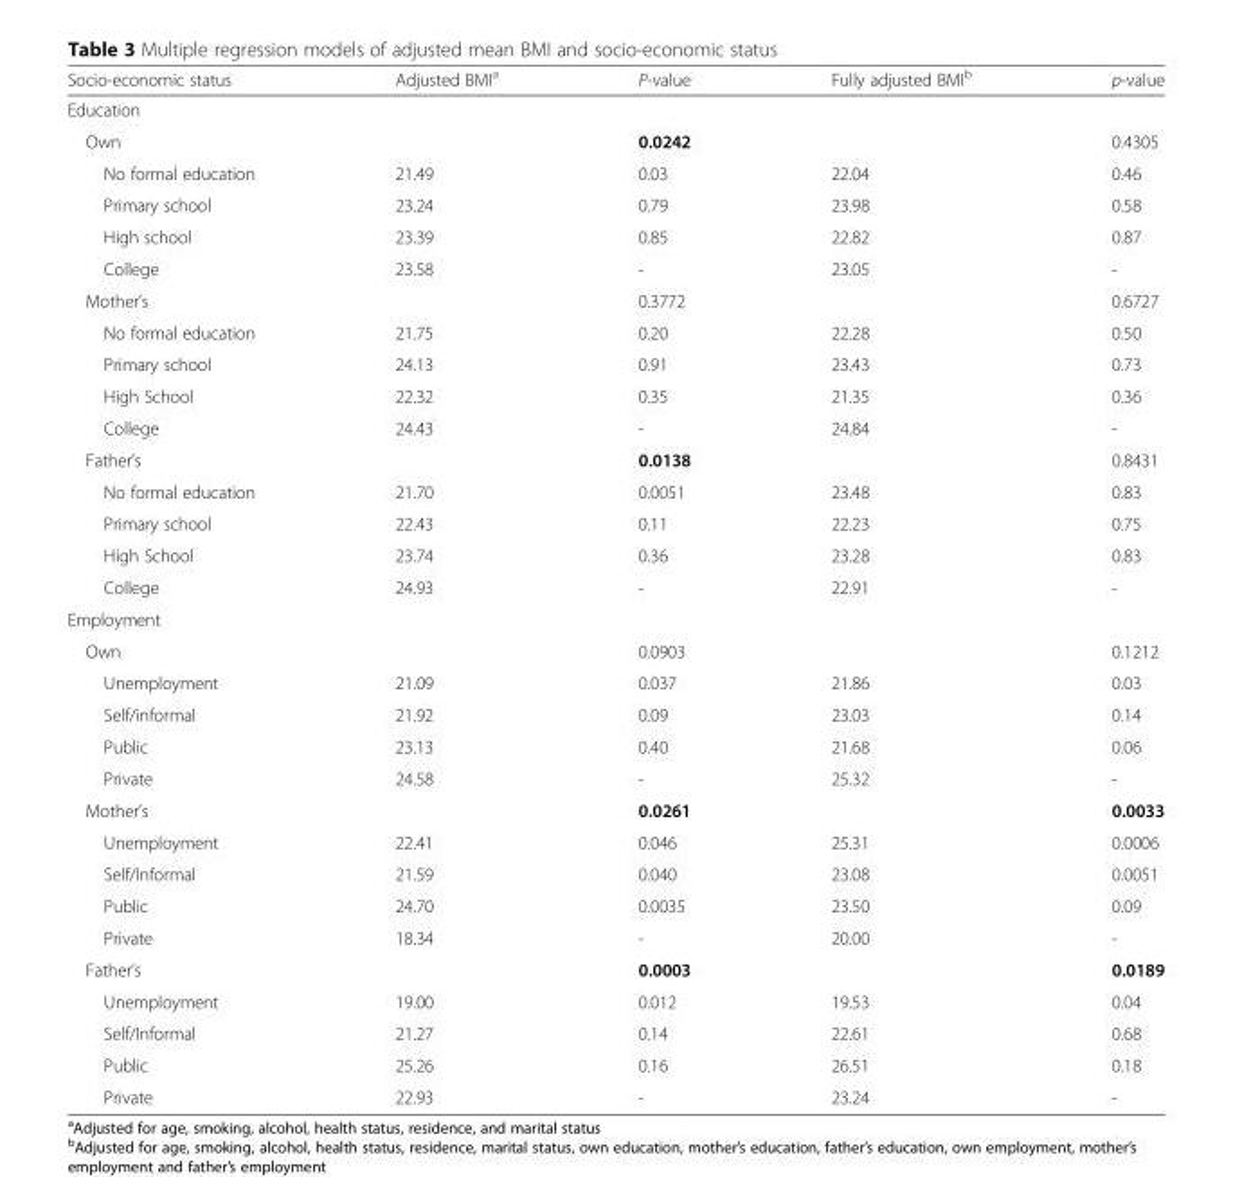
<table><thead><tr><td>Socio-economic status</td><td>Adjusted BMI<sup>a</sup></td><td>P-value</td><td>Fully adjusted BMI<sup>b</sup></td><td>p-value</td></tr></thead><tbody><tr><td colspan="5">Education</td></tr><tr><td>Own</td><td></td><td>0.0242</td><td></td><td>0.4305</td></tr><tr><td>No formal education</td><td>21.49</td><td>0.03</td><td>22.04</td><td>0.46</td></tr><tr><td>Primary school</td><td>23.24</td><td>0.79</td><td>23.98</td><td>0.58</td></tr><tr><td>High school</td><td>23.39</td><td>0.85</td><td>22.82</td><td>0.87</td></tr><tr><td>College</td><td>23.58</td><td>-</td><td>23.05</td><td>-</td></tr><tr><td>Mother’s</td><td></td><td>0.3772</td><td></td><td>0.6727</td></tr><tr><td>No formal education</td><td>21.75</td><td>0.20</td><td>22.28</td><td>0.50</td></tr><tr><td>Primary school</td><td>24.13</td><td>0.91</td><td>23.43</td><td>0.73</td></tr><tr><td>High School</td><td>22.32</td><td>0.35</td><td>21.35</td><td>0.36</td></tr><tr><td>College</td><td>24.43</td><td>-</td><td>24.84</td><td>-</td></tr><tr><td>Father’s</td><td></td><td>0.0138</td><td></td><td>0.8431</td></tr><tr><td>No formal education</td><td>21.70</td><td>0.0051</td><td>23.48</td><td>0.83</td></tr><tr><td>Primary school</td><td>22.43</td><td>0.11</td><td>22.23</td><td>0.75</td></tr><tr><td>High School</td><td>23.74</td><td>0.36</td><td>23.28</td><td>0.83</td></tr><tr><td>College</td><td>24.93</td><td>-</td><td>22.91</td><td>-</td></tr><tr><td colspan="5">Employment</td></tr><tr><td>Own</td><td></td><td>0.0903</td><td></td><td>0.1212</td></tr><tr><td>Unemployment</td><td>21.09</td><td>0.037</td><td>21.86</td><td>0.03</td></tr><tr><td>Self/informal</td><td>21.92</td><td>0.09</td><td>23.03</td><td>0.14</td></tr><tr><td>Public</td><td>23.13</td><td>0.40</td><td>21.68</td><td>0.06</td></tr><tr><td>Private</td><td>24.58</td><td>-</td><td>25.32</td><td>-</td></tr><tr><td>Mother’s</td><td></td><td>0.0261</td><td></td><td>0.0033</td></tr><tr><td>Unemployment</td><td>22.41</td><td>0.046</td><td>25.31</td><td>0.0006</td></tr><tr><td>Self/Informal</td><td>21.59</td><td>0.040</td><td>23.08</td><td>0.0051</td></tr><tr><td>Public</td><td>24.70</td><td>0.0035</td><td>23.50</td><td>0.09</td></tr><tr><td>Private</td><td>18.34</td><td>-</td><td>20.00</td><td>-</td></tr><tr><td>Father’s</td><td></td><td>0.0003</td><td></td><td>0.0189</td></tr><tr><td>Unemployment</td><td>19.00</td><td>0.012</td><td>19.53</td><td>0.04</td></tr><tr><td>Self/Informal</td><td>21.27</td><td>0.14</td><td>22.61</td><td>0.68</td></tr><tr><td>Public</td><td>25.26</td><td>0.16</td><td>26.51</td><td>0.18</td></tr><tr><td>Private</td><td>22.93</td><td>-</td><td>23.24</td><td>-</td></tr></tbody></table>